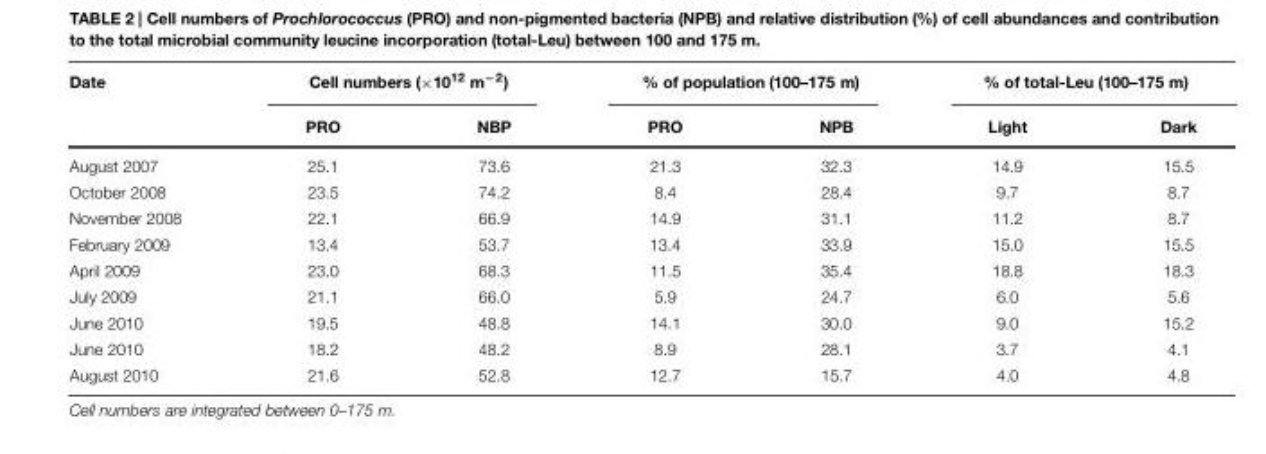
<table><thead><tr><td rowspan="2">Date</td><td colspan="2">Cell numbers (×10<sup>12</sup> m<sup>−2</sup>)</td><td colspan="2">% of population (100–175 m)</td><td colspan="2">% of total-Leu (100–175 m)</td></tr><tr><td>PRO</td><td>NBP</td><td>PRO</td><td>NPB</td><td>Light</td><td>Dark</td></tr></thead><tbody><tr><td>August 2007</td><td>25.1</td><td>73.6</td><td>21.3</td><td>32.3</td><td>14.9</td><td>15.5</td></tr><tr><td>October 2008</td><td>23.5</td><td>74.2</td><td>8.4</td><td>28.4</td><td>9.7</td><td>8.7</td></tr><tr><td>November 2008</td><td>22.1</td><td>66.9</td><td>14.9</td><td>31.1</td><td>11.2</td><td>8.7</td></tr><tr><td>February 2009</td><td>13.4</td><td>53.7</td><td>13.4</td><td>33.9</td><td>15.0</td><td>15.5</td></tr><tr><td>April 2009</td><td>23.0</td><td>68.3</td><td>11.5</td><td>35.4</td><td>18.8</td><td>18.3</td></tr><tr><td>July 2009</td><td>21.1</td><td>66.0</td><td>5.9</td><td>24.7</td><td>6.0</td><td>5.6</td></tr><tr><td>June 2010</td><td>19.5</td><td>48.8</td><td>14.1</td><td>30.0</td><td>9.0</td><td>15.2</td></tr><tr><td>June 2010</td><td>18.2</td><td>48.2</td><td>8.9</td><td>28.1</td><td>3.7</td><td>4.1</td></tr><tr><td>August 2010</td><td>21.6</td><td>52.8</td><td>12.7</td><td>15.7</td><td>4.0</td><td>4.8</td></tr></tbody></table>